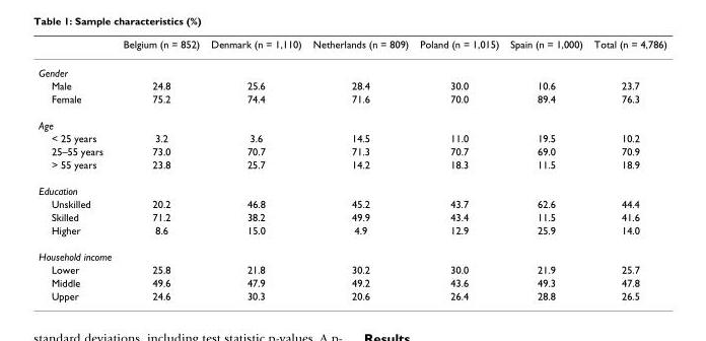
<table><thead><tr><td></td><td>Belgium (n = 852)</td><td>Denmark (n = 1,110)</td><td>Netherlands (n = 809)</td><td>Poland (n = 1,015)</td><td>Spain (n = 1,000)</td><td>Total (n = 4,786)</td></tr></thead><tbody><tr><td colspan="7">Gender</td></tr><tr><td>Male</td><td>24.8</td><td>25.6</td><td>28.4</td><td>30.0</td><td>10.6</td><td>23.7</td></tr><tr><td>Female</td><td>75.2</td><td>74.4</td><td>71.6</td><td>70.0</td><td>89.4</td><td>76.3</td></tr><tr><td colspan="7">Age</td></tr><tr><td>&lt; 25 years</td><td>3.2</td><td>3.6</td><td>14.5</td><td>11.0</td><td>19.5</td><td>10.2</td></tr><tr><td>25–55 years</td><td>73.0</td><td>70.7</td><td>71.3</td><td>70.7</td><td>69.0</td><td>70.9</td></tr><tr><td>&gt; 55 years</td><td>23.8</td><td>25.7</td><td>14.2</td><td>18.3</td><td>11.5</td><td>18.9</td></tr><tr><td colspan="7">Education</td></tr><tr><td>Unskilled</td><td>20.2</td><td>46.8</td><td>45.2</td><td>43.7</td><td>62.6</td><td>44.4</td></tr><tr><td>Skilled</td><td>71.2</td><td>38.2</td><td>49.9</td><td>43.4</td><td>11.5</td><td>41.6</td></tr><tr><td>Higher</td><td>8.6</td><td>15.0</td><td>4.9</td><td>12.9</td><td>25.9</td><td>14.0</td></tr><tr><td colspan="7">Household income</td></tr><tr><td>Lower</td><td>25.8</td><td>21.8</td><td>30.2</td><td>30.0</td><td>21.9</td><td>25.7</td></tr><tr><td>Middle</td><td>49.6</td><td>47.9</td><td>49.2</td><td>43.6</td><td>49.3</td><td>47.8</td></tr><tr><td>Upper</td><td>24.6</td><td>30.3</td><td>20.6</td><td>26.4</td><td>28.8</td><td>26.5</td></tr></tbody></table>